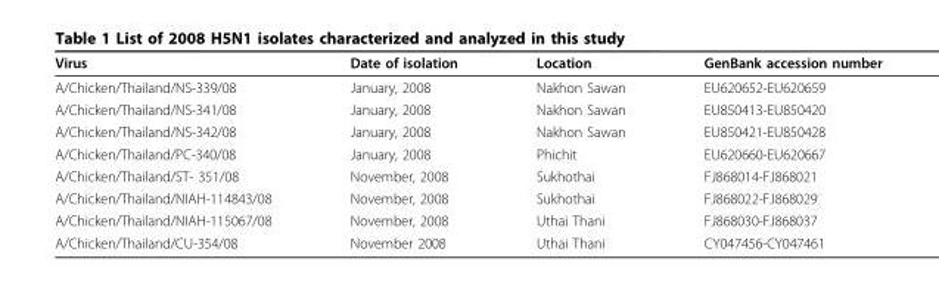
<table><thead><tr><td>Virus</td><td>Date of isolation</td><td>Location</td><td>GenBank accession number</td></tr></thead><tbody><tr><td>A/Chicken/Thailand/NS-339/08</td><td>January, 2008</td><td>Nakhon Sawan</td><td>EU620652-EU620659</td></tr><tr><td>A/Chicken/Thailand/NS-341/08</td><td>January, 2008</td><td>Nakhon Sawan</td><td>EU850413-EU850420</td></tr><tr><td>A/Chicken/Thailand/NS-342/08</td><td>January, 2008</td><td>Nakhon Sawan</td><td>EU850421-EU850428</td></tr><tr><td>A/Chicken/Thailand/PC-340/08</td><td>January, 2008</td><td>Phichit</td><td>EU620660-EU620667</td></tr><tr><td>A/Chicken/Thailand/ST- 351/08</td><td>November, 2008</td><td>Sukhothai</td><td>FJ868014-FJ868021</td></tr><tr><td>A/Chicken/Thailand/NIAH-114843/08</td><td>November, 2008</td><td>Sukhothai</td><td>FJ868022-FJ868029</td></tr><tr><td>A/Chicken/Thailand/NIAH-115067/08</td><td>November, 2008</td><td>Uthai Thani</td><td>FJ868030-FJ868037</td></tr><tr><td>A/Chicken/Thailand/CU-354/08</td><td>November 2008</td><td>Uthai Thani</td><td>CY047456-CY047461</td></tr></tbody></table>